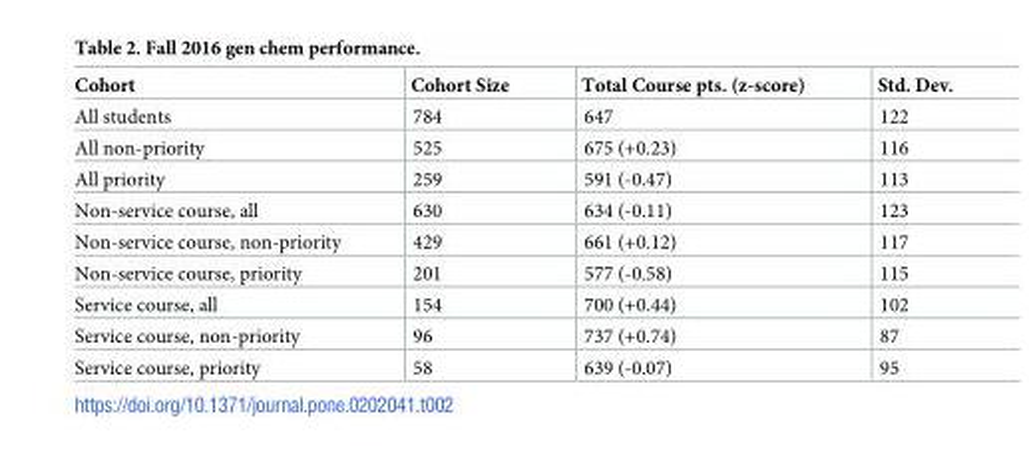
<table><thead><tr><td>Cohort</td><td>Cohort Size</td><td>Total Course pts. (z-score)</td><td>Std. Dev.</td></tr></thead><tbody><tr><td>All students</td><td>784</td><td>647</td><td>122</td></tr><tr><td>All non-priority</td><td>525</td><td>675 (+0.23)</td><td>116</td></tr><tr><td>All priority</td><td>259</td><td>591 (-0.47)</td><td>113</td></tr><tr><td>Non-service course, all</td><td>630</td><td>634 (-0.11)</td><td>123</td></tr><tr><td>Non-service course, non-priority</td><td>429</td><td>661 (+0.12)</td><td>117</td></tr><tr><td>Non-service course, priority</td><td>201</td><td>577 (-0.58)</td><td>115</td></tr><tr><td>Service course, all</td><td>154</td><td>700 (+0.44)</td><td>102</td></tr><tr><td>Service course, non-priority</td><td>96</td><td>737 (+0.74)</td><td>87</td></tr><tr><td>Service course, priority</td><td>58</td><td>639 (-0.07)</td><td>95</td></tr></tbody></table>